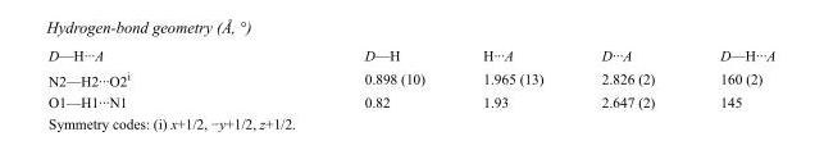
<table><tbody><tr><td>D—H···A</td><td>D—H</td><td>H···A</td><td>D···A</td><td>D—H···A</td></tr><tr><td>N2—H2···O2<sup>i</sup></td><td>0.898 (10)</td><td>1.965 (13)</td><td>2.826 (2)</td><td>160 (2)</td></tr><tr><td>O1—H1···N1</td><td>0.82</td><td>1.93</td><td>2.647 (2)</td><td>145</td></tr></tbody></table>